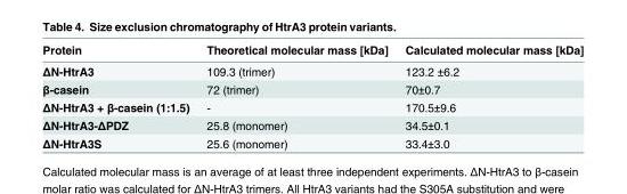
<table><thead><tr><td>Protein</td><td>Theoretical molecular mass [kDa]</td><td>Calculated molecular mass [kDa]</td></tr></thead><tbody><tr><td>ΔN-HtrA3</td><td>109.3 (trimer)</td><td>123.2 ±6.2</td></tr><tr><td>β-casein</td><td>72 (trimer)</td><td>70±0.7</td></tr><tr><td>ΔN-HtrA3 + β-casein (1:1.5)</td><td>-</td><td>170.5±9.6</td></tr><tr><td>ΔN-HtrA3-ΔPDZ</td><td>25.8 (monomer)</td><td>34.5±0.1</td></tr><tr><td>ΔN-HtrA3S</td><td>25.6 (monomer)</td><td>33.4±3.0</td></tr></tbody></table>